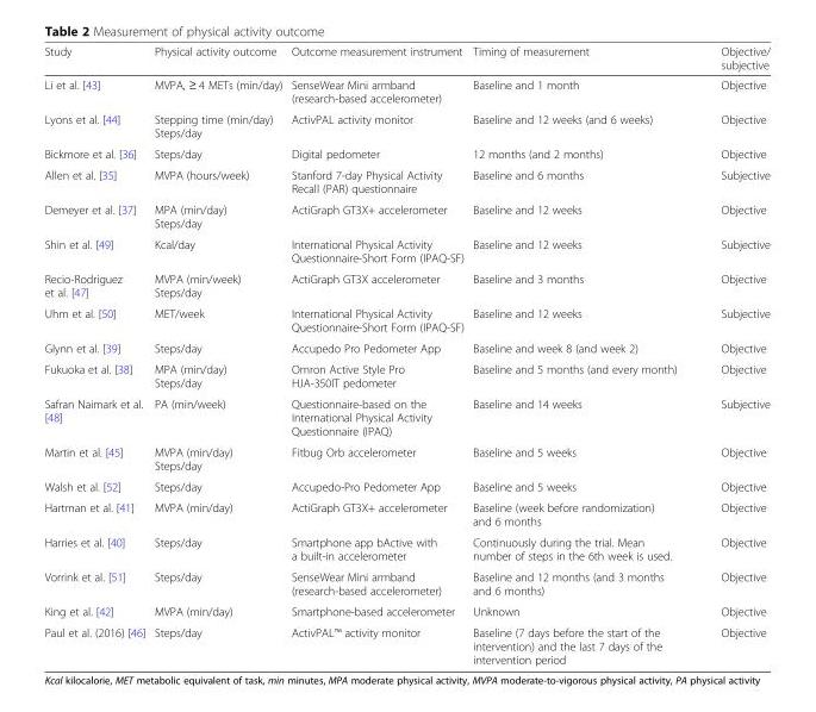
<table><thead><tr><td>Study</td><td>Physical activity outcome</td><td>Outcome measurement instrument</td><td>Timing of measurement</td><td>Objective/ subjective</td></tr></thead><tbody><tr><td>Li et al. [43]</td><td>MVPA, ≥ 4 METs (min/day)</td><td>SenseWear Mini armband (research-based accelerometer)</td><td>Baseline and 1 month</td><td>Objective</td></tr><tr><td>Lyons et al. [44]</td><td>Stepping time (min/day) Steps/day</td><td>ActivPAL activity monitor</td><td>Baseline and 12 weeks (and 6 weeks)</td><td>Objective</td></tr><tr><td>Bickmore et al. [36]</td><td>Steps/day</td><td>Digital pedometer</td><td>12 months (and 2 months)</td><td>Objective</td></tr><tr><td>Allen et al. [35]</td><td>MVPA (hours/week)</td><td>Stanford 7-day Physical Activity Recall (PAR) questionnaire</td><td>Baseline and 6 months</td><td>Subjective</td></tr><tr><td>Demeyer et al. [37]</td><td>MPA (min/day) Steps/day</td><td>ActiGraph GT3X+ accelerometer</td><td>Baseline and 12 weeks</td><td>Objective</td></tr><tr><td>Shin et al. [49]</td><td>Kcal/day</td><td>International Physical Activity Questionnaire-Short Form (IPAQ-SF)</td><td>Baseline and 12 weeks</td><td>Subjective</td></tr><tr><td>Recio-Rodriguez et al. [47]</td><td>MVPA (min/week) Steps/day</td><td>ActiGraph GT3X accelerometer</td><td>Baseline and 3 months</td><td>Objective</td></tr><tr><td>Uhm et al. [50]</td><td>MET/week</td><td>International Physical Activity Questionnaire-Short Form (IPAQ-SF)</td><td>Baseline and 12 weeks</td><td>Subjective</td></tr><tr><td>Glynn et al. [39]</td><td>Steps/day</td><td>Accupedo Pro Pedometer App</td><td>Baseline and week 8 (and week 2)</td><td>Objective</td></tr><tr><td>Fukuoka et al. [38]</td><td>MPA (min/day) Steps/day</td><td>Omron Active Style Pro HJA-350IT pedometer</td><td>Baseline and 5 months (and every month)</td><td>Objective</td></tr><tr><td>Safran Naimark et al. [48]</td><td>PA (min/week)</td><td>Questionnaire-based on the International Physical Activity Questionnaire (IPAQ)</td><td>Baseline and 14 weeks</td><td>Subjective</td></tr><tr><td>Martin et al. [45]</td><td>MVPA (min/day) Steps/day</td><td>Fitbug Orb accelerometer</td><td>Baseline and 5 weeks</td><td>Objective</td></tr><tr><td>Walsh et al. [52]</td><td>Steps/day</td><td>Accupedo-Pro Pedometer App</td><td>Baseline and 5 weeks</td><td>Objective</td></tr><tr><td>Hartman et al. [41]</td><td>MVPA (min/day)</td><td>ActiGraph GT3X+ accelerometer</td><td>Baseline (week before randomization) and 6 months</td><td>Objective</td></tr><tr><td>Harries et al. [40]</td><td>Steps/day</td><td>Smartphone app bActive with a built-in accelerometer</td><td>Continuously during the trial. Mean number of steps in the 6th week is used.</td><td>Objective</td></tr><tr><td>Vorrink et al. [51]</td><td>Steps/day</td><td>SenseWear Mini armband (research-based accelerometer)</td><td>Baseline and 12 months (and 3 months and 6 months)</td><td>Objective</td></tr><tr><td>King et al. [42]</td><td>MVPA (min/day)</td><td>Smartphone-based accelerometer</td><td>Unknown</td><td>Objective</td></tr><tr><td>Paul et al. (2016) [46]</td><td>Steps/day</td><td>ActivPAL™ activity monitor</td><td>Baseline (7 days before the start of the intervention) and the last 7 days of the intervention period</td><td>Objective</td></tr></tbody></table>